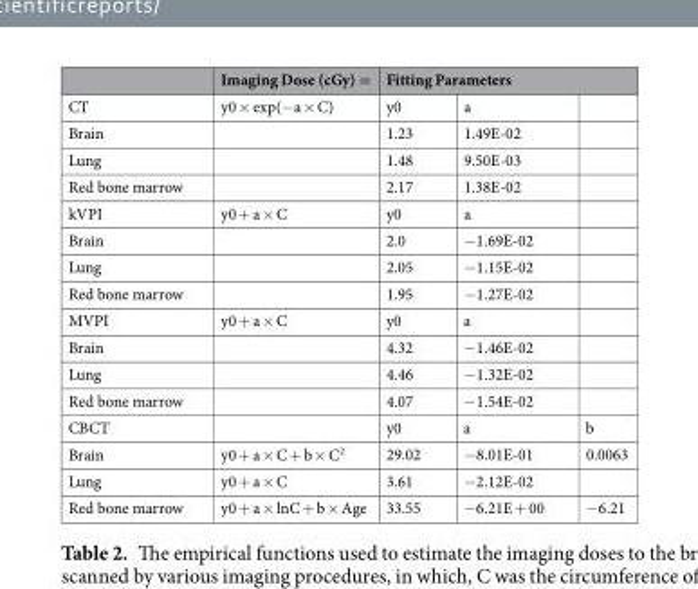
<table><thead><tr><td rowspan="2">CT</td><td rowspan="2">Imaging Dose (cGy) = y0 × exp(−a × C)</td><td colspan="3">Fitting Parameters</td></tr><tr><td>y0</td><td>a</td><td></td></tr></thead><tbody><tr><td>Brain</td><td></td><td>1.23</td><td>1.49E-02</td><td></td></tr><tr><td>Lung</td><td></td><td>1.48</td><td>9.50E-03</td><td></td></tr><tr><td>Red bone marrow</td><td></td><td>2.17</td><td>1.38E-02</td><td></td></tr><tr><td>kVPI</td><td>y0 + a × C</td><td>y0</td><td>a</td><td></td></tr><tr><td>Brain</td><td></td><td>2.0</td><td>−1.69E-02</td><td></td></tr><tr><td>Lung</td><td></td><td>2.05</td><td>−1.15E-02</td><td></td></tr><tr><td>Red bone marrow</td><td></td><td>1.95</td><td>−1.27E-02</td><td></td></tr><tr><td>MVPI</td><td>y0 + a × C</td><td>y0</td><td>a</td><td></td></tr><tr><td>Brain</td><td></td><td>4.32</td><td>−1.46E-02</td><td></td></tr><tr><td>Lung</td><td></td><td>4.46</td><td>−1.32E-02</td><td></td></tr><tr><td>Red bone marrow</td><td></td><td>4.07</td><td>−1.54E-02</td><td></td></tr><tr><td>CBCT</td><td></td><td>y0</td><td>a</td><td>b</td></tr><tr><td>Brain</td><td>y0 + a × C + b × C<sup>2</sup></td><td>29.02</td><td>−8.01E-01</td><td>0.0063</td></tr><tr><td>Lung</td><td>y0 + a × C</td><td>3.61</td><td>−2.12E-02</td><td></td></tr><tr><td>Red bone marrow</td><td>y0 + a × lnC + b × Age</td><td>33.55</td><td>−6.21E + 00</td><td>−6.21</td></tr></tbody></table>